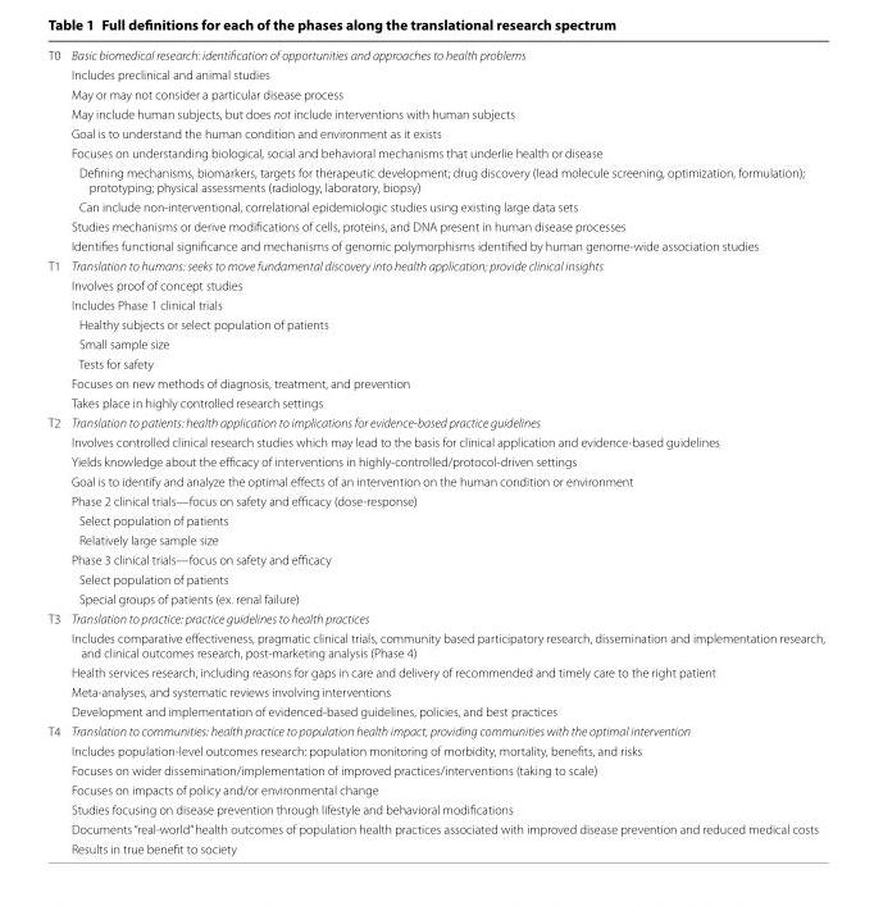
<table><tbody><tr><td rowspan="10">T0</td><td>Basic biomedical research: identification of opportunities and approaches to health problems</td></tr><tr><td>Includes preclinical and animal studies</td></tr><tr><td>May or may not consider a particular disease process</td></tr><tr><td>May include human subjects, but does not include interventions with human subjects</td></tr><tr><td>Goal is to understand the human condition and environment as it exists</td></tr><tr><td>Focuses on understanding biological, social and behavioral mechanisms that underlie health or disease</td></tr><tr><td>Defining mechanisms, biomarkers, targets for therapeutic development; drug discovery (lead molecule screening, optimization, formulation); prototyping; physical assessments (radiology, laboratory, biopsy)</td></tr><tr><td>Can include non-interventional, correlational epidemiologic studies using existing large data sets</td></tr><tr><td>Studies mechanisms or derive modifications of cells, proteins, and DNA present in human disease processes</td></tr><tr><td>Identifies functional significance and mechanisms of genomic polymorphisms identified by human genome-wide association studies</td></tr><tr><td rowspan="8">T1</td><td>Translation to humans: seeks to move fundamental discovery into health application; provide clinical insights</td></tr><tr><td>Involves proof of concept studies</td></tr><tr><td>Includes Phase 1 clinical trials</td></tr><tr><td>Healthy subjects or select population of patients</td></tr><tr><td>Small sample size</td></tr><tr><td>Tests for safety</td></tr><tr><td>Focuses on new methods of diagnosis, treatment, and prevention</td></tr><tr><td>Takes place in highly controlled research settings</td></tr><tr><td rowspan="10">T2</td><td>Translation to patients: health application to implications for evidence-based practice guidelines</td></tr><tr><td>Involves controlled clinical research studies which may lead to the basis for clinical application and evidence-based guidelines</td></tr><tr><td>Yields knowledge about the efficacy of interventions in highly-controlled/protocol-driven settings</td></tr><tr><td>Goal is to identify and analyze the optimal effects of an intervention on the human condition or environment</td></tr><tr><td>Phase 2 clinical trials—focus on safety and efficacy (dose-response)</td></tr><tr><td>Select population of patients</td></tr><tr><td>Relatively large sample size</td></tr><tr><td>Phase 3 clinical trials—focus on safety and efficacy</td></tr><tr><td>Select population of patients</td></tr><tr><td>Special groups of patients (ex. renal failure)</td></tr><tr><td rowspan="5">T3</td><td>Translation to practice: practice guidelines to health practices</td></tr><tr><td>Includes comparative effectiveness, pragmatic clinical trials, community based participatory research, dissemination and implementation research, and clinical outcomes research, post-marketing analysis (Phase 4)</td></tr><tr><td>Health services research, including reasons for gaps in care and delivery of recommended and timely care to the right patient</td></tr><tr><td>Meta-analyses, and systematic reviews involving interventions</td></tr><tr><td>Development and implementation of evidenced-based guidelines, policies, and best practices</td></tr><tr><td rowspan="7">T4</td><td>Translation to communities: health practice to population health impact, providing communities with the optimal intervention</td></tr><tr><td>Includes population-level outcomes research: population monitoring of morbidity, mortality, benefits, and risks</td></tr><tr><td>Focuses on wider dissemination/implementation of improved practices/interventions (taking to scale)</td></tr><tr><td>Focuses on impacts of policy and/or environmental change</td></tr><tr><td>Studies focusing on disease prevention through lifestyle and behavioral modifications</td></tr><tr><td>Documents “real-world” health outcomes of population health practices associated with improved disease prevention and reduced medical costs</td></tr><tr><td>Results in true benefit to society</td></tr></tbody></table>